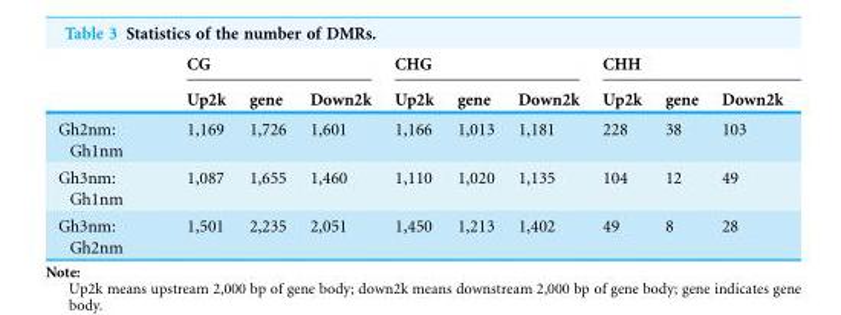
<table><thead><tr><td rowspan="2"></td><td colspan="3">CG</td><td colspan="3">CHG</td><td colspan="3">CHH</td></tr><tr><td>Up2k</td><td>gene</td><td>Down2k</td><td>Up2k</td><td>gene</td><td>Down2k</td><td>Up2k</td><td>gene</td><td>Down2k</td></tr></thead><tbody><tr><td>Gh2nm: Gh1nm</td><td>1,169</td><td>1,726</td><td>1,601</td><td>1,166</td><td>1,013</td><td>1,181</td><td>228</td><td>38</td><td>103</td></tr><tr><td>Gh3nm: Gh1nm</td><td>1,087</td><td>1,655</td><td>1,460</td><td>1,110</td><td>1,020</td><td>1,135</td><td>104</td><td>12</td><td>49</td></tr><tr><td>Gh3nm: Gh2nm</td><td>1,501</td><td>2,235</td><td>2,051</td><td>1,450</td><td>1,213</td><td>1,402</td><td>49</td><td>8</td><td>28</td></tr></tbody></table>